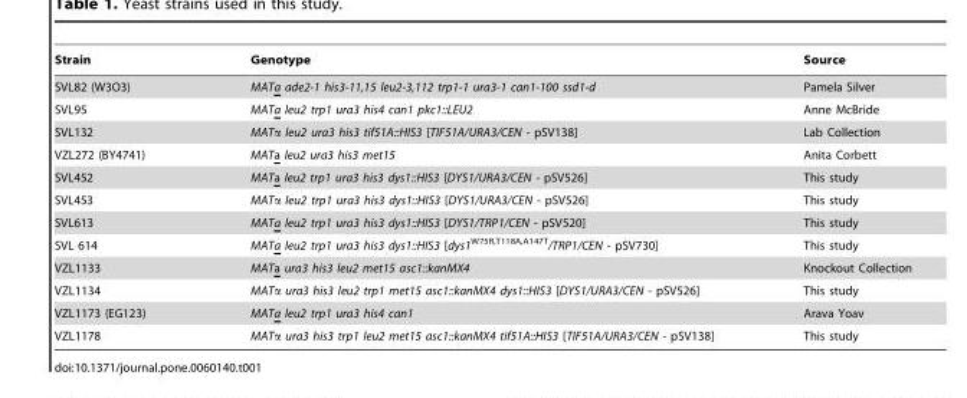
<table><thead><tr><td>Strain</td><td>Genotype</td><td>Source</td></tr></thead><tbody><tr><td>SVL82 (W3O3)</td><td>MATa ade2-1 his3-11,15 leu2-3,112 trp1-1 ura3-1 can1-100 ssd1-d</td><td>Pamela Silver</td></tr><tr><td>SVL95</td><td>MATa leu2 trp1 ura3 his4 can1 pkc1::LEU2</td><td>Anne McBride</td></tr><tr><td>SVL132</td><td>MATα leu2 ura3 his3 tif51A::HIS3 [TIF51A/URA3/CEN - pSV138]</td><td>Lab Collection</td></tr><tr><td>VZL272 (BY4741)</td><td>MATa leu2 ura3 his3 met15</td><td>Anita Corbett</td></tr><tr><td>SVL452</td><td>MATa leu2 trp1 ura3 his3 dys1::HIS3 [DYS1/URA3/CEN - pSV526]</td><td>This study</td></tr><tr><td>SVL453</td><td>MATα leu2 trp1 ura3 his3 dys1::HIS3 [DYS1/URA3/CEN - pSV526]</td><td>This study</td></tr><tr><td>SVL613</td><td>MATa leu2 trp1 ura3 his3 dys1::HIS3 [DYS1/TRP1/CEN - pSV520]</td><td>This study</td></tr><tr><td>SVL 614</td><td>MATa leu2 trp1 ura3 his3 dys1::HIS3 [dys1<sup>W75R,T118A,A147T</sup>/TRP1/CEN - pSV730]</td><td>This study</td></tr><tr><td>VZL1133</td><td>MATa ura3 his3 leu2 met15 asc1::kanMX4</td><td>Knockout Collection</td></tr><tr><td>VZL1134</td><td>MATα ura3 his3 leu2 trp1 met15 asc1::kanMX4 dys1::HIS3 [DYS1/URA3/CEN - pSV526]</td><td>This study</td></tr><tr><td>VZL1173 (EG123)</td><td>MATa leu2 trp1 ura3 his4 can1</td><td>Arava Yoav</td></tr><tr><td>VZL1178</td><td>MATα ura3 his3 trp1 leu2 met15 asc1::kanMX4 tif51A::HIS3 [TIF51A/URA3/CEN - pSV138]</td><td>This study</td></tr></tbody></table>